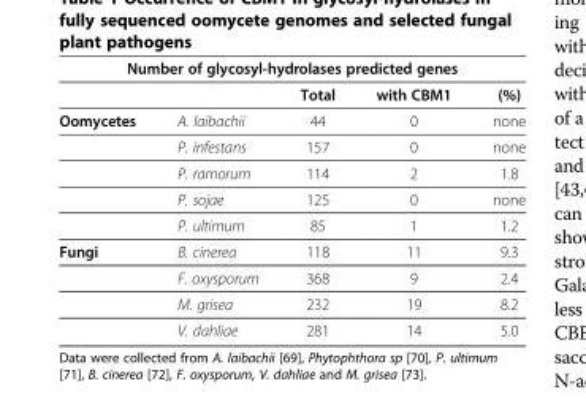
<table><thead><tr><td colspan="5">Number of glycosyl-hydrolases predicted genes</td></tr><tr><td></td><td></td><td>Total</td><td>with CBM1</td><td>(%)</td></tr></thead><tbody><tr><td rowspan="5">Oomycetes</td><td>A. laibachii</td><td>44</td><td>0</td><td>none</td></tr><tr><td>P. infestans</td><td>157</td><td>0</td><td>none</td></tr><tr><td>P. ramorum</td><td>114</td><td>2</td><td>1.8</td></tr><tr><td>P. sojae</td><td>125</td><td>0</td><td>none</td></tr><tr><td>P. ultimum</td><td>85</td><td>1</td><td>1.2</td></tr><tr><td rowspan="4">Fungi</td><td>B. cinerea</td><td>118</td><td>11</td><td>9.3</td></tr><tr><td>F. oxysporum</td><td>368</td><td>9</td><td>2.4</td></tr><tr><td>M. grisea</td><td>232</td><td>19</td><td>8.2</td></tr><tr><td>V. dahliae</td><td>281</td><td>14</td><td>5.0</td></tr></tbody></table>